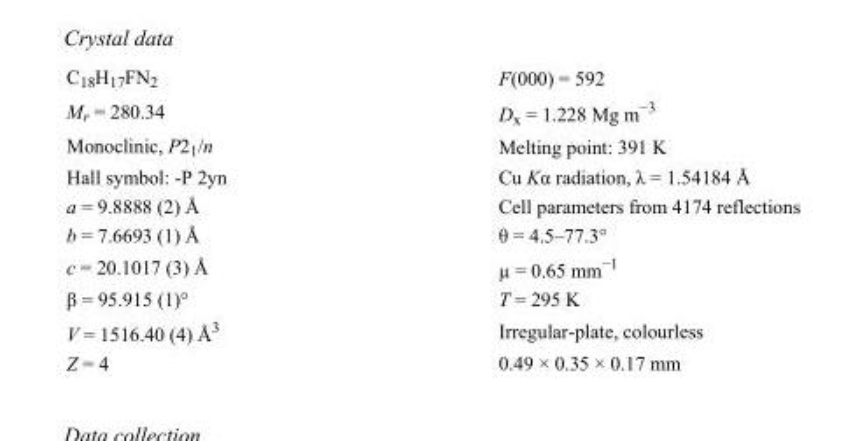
<table><tbody><tr><td>C<sub>18</sub>H<sub>17</sub>FN<sub>2</sub></td><td>F(000) = 592</td></tr><tr><td>M<sub>r</sub> = 280.34</td><td>D<sub>x</sub> = 1.228 Mg m<sup>−3</sup></td></tr><tr><td>Monoclinic, P2<sub>1</sub>/n</td><td>Melting point: 391 K</td></tr><tr><td>Hall symbol: -P 2yn</td><td>Cu Kα radiation, λ = 1.54184 Å</td></tr><tr><td>a = 9.8888 (2) Å</td><td>Cell parameters from 4174 reflections</td></tr><tr><td>b = 7.6693 (1) Å</td><td>θ = 4.5–77.3°</td></tr><tr><td>c = 20.1017 (3) Å</td><td>µ = 0.65 mm<sup>−1</sup></td></tr><tr><td>β = 95.915 (1)°</td><td>T = 295 K</td></tr><tr><td>V = 1516.40 (4) Å<sup>3</sup></td><td>Irregular-plate, colourless</td></tr><tr><td>Z = 4</td><td>0.49 × 0.35 × 0.17 mm</td></tr></tbody></table>